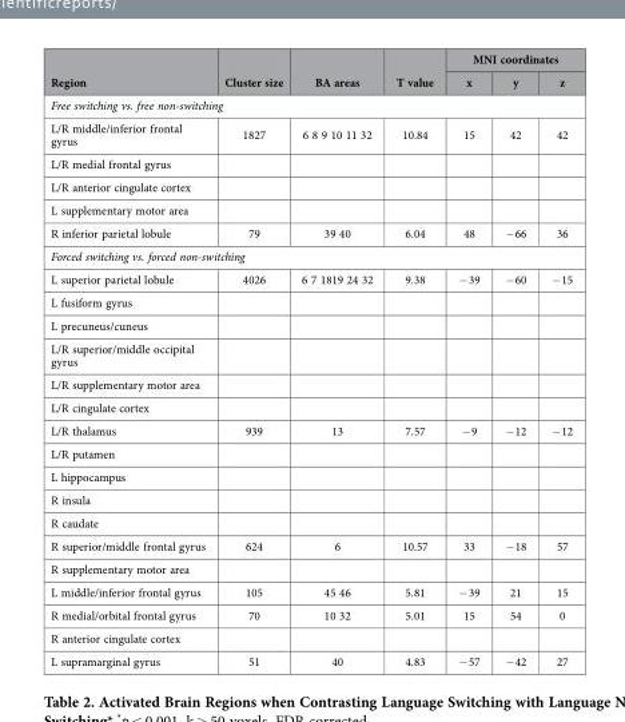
<table><thead><tr><td rowspan="2">Region</td><td rowspan="2">Cluster size</td><td rowspan="2">BA areas</td><td rowspan="2">T value</td><td colspan="3">MNI coordinates</td></tr><tr><td>x</td><td>y</td><td>z</td></tr></thead><tbody><tr><td colspan="7">Free switching vs. free non-switching</td></tr><tr><td>L/R middle/inferior frontal gyrus</td><td>1827</td><td>6 8 9 10 11 32</td><td>10.84</td><td>15</td><td>42</td><td>42</td></tr><tr><td colspan="7">L/R medial frontal gyrus</td></tr><tr><td colspan="7">L/R anterior cingulate cortex</td></tr><tr><td colspan="7">L supplementary motor area</td></tr><tr><td>R inferior parietal lobule</td><td>79</td><td>39 40</td><td>6.04</td><td>48</td><td>− 66</td><td>36</td></tr><tr><td colspan="7">Forced switching vs. forced non-switching</td></tr><tr><td>L superior parietal lobule</td><td>4026</td><td>6 7 1819 24 32</td><td>9.38</td><td>− 39</td><td>− 60</td><td>− 15</td></tr><tr><td colspan="7">L fusiform gyrus</td></tr><tr><td colspan="7">L precuneus/cuneus</td></tr><tr><td colspan="7">L/R superior/middle occipital gyrus</td></tr><tr><td colspan="7">L/R supplementary motor area</td></tr><tr><td colspan="7">L/R cingulate cortex</td></tr><tr><td>L/R thalamus</td><td>939</td><td>13</td><td>7.57</td><td>− 9</td><td>− 12</td><td>− 12</td></tr><tr><td colspan="7">L/R putamen</td></tr><tr><td colspan="7">L hippocampus</td></tr><tr><td colspan="7">R insula</td></tr><tr><td colspan="7">R caudate</td></tr><tr><td>R superior/middle frontal gyrus</td><td>624</td><td>6</td><td>10.57</td><td>33</td><td>− 18</td><td>57</td></tr><tr><td colspan="7">R supplementary motor area</td></tr><tr><td>L middle/inferior frontal gyrus</td><td>105</td><td>45 46</td><td>5.81</td><td>− 39</td><td>21</td><td>15</td></tr><tr><td>R medial/orbital frontal gyrus</td><td>70</td><td>10 32</td><td>5.01</td><td>15</td><td>54</td><td>0</td></tr><tr><td colspan="7">R anterior cingulate cortex</td></tr><tr><td>L supramarginal gyrus</td><td>51</td><td>40</td><td>4.83</td><td>− 57</td><td>− 42</td><td>27</td></tr></tbody></table>